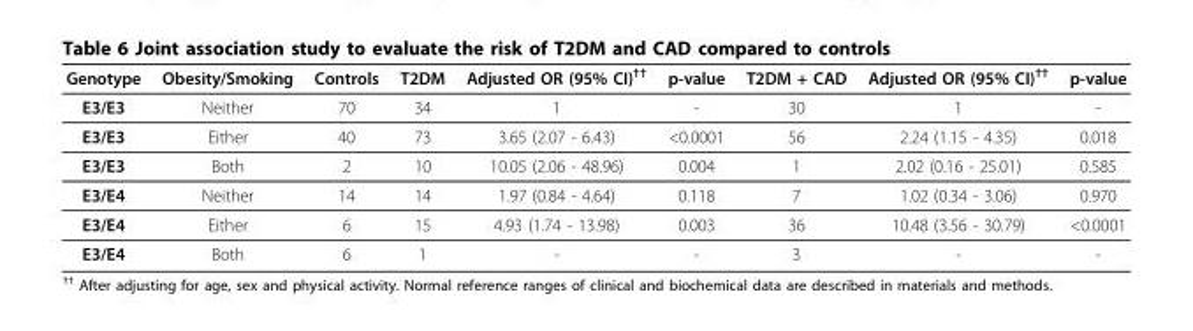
<table><thead><tr><td>Genotype</td><td>Obesity/Smoking</td><td>Controls</td><td>T2DM</td><td>Adjusted OR (95% CI)<sup>††</sup></td><td>p-value</td><td>T2DM + CAD</td><td>Adjusted OR (95% CI)<sup>††</sup></td><td>p-value</td></tr></thead><tbody><tr><td>E3/E3</td><td>Neither</td><td>70</td><td>34</td><td>1</td><td>-</td><td>30</td><td>1</td><td>-</td></tr><tr><td>E3/E3</td><td>Either</td><td>40</td><td>73</td><td>3.65 (2.07 - 6.43)</td><td>&lt;0.0001</td><td>56</td><td>2.24 (1.15 - 4.35)</td><td>0.018</td></tr><tr><td>E3/E3</td><td>Both</td><td>2</td><td>10</td><td>10.05 (2.06 - 48.96)</td><td>0.004</td><td>1</td><td>2.02 (0.16 - 25.01)</td><td>0.585</td></tr><tr><td>E3/E4</td><td>Neither</td><td>14</td><td>14</td><td>1.97 (0.84 - 4.64)</td><td>0.118</td><td>7</td><td>1.02 (0.34 - 3.06)</td><td>0.970</td></tr><tr><td>E3/E4</td><td>Either</td><td>6</td><td>15</td><td>4.93 (1.74 - 13.98)</td><td>0.003</td><td>36</td><td>10.48 (3.56 - 30.79)</td><td>&lt;0.0001</td></tr><tr><td>E3/E4</td><td>Both</td><td>6</td><td>1</td><td>-</td><td>-</td><td>3</td><td>-</td><td>-</td></tr></tbody></table>